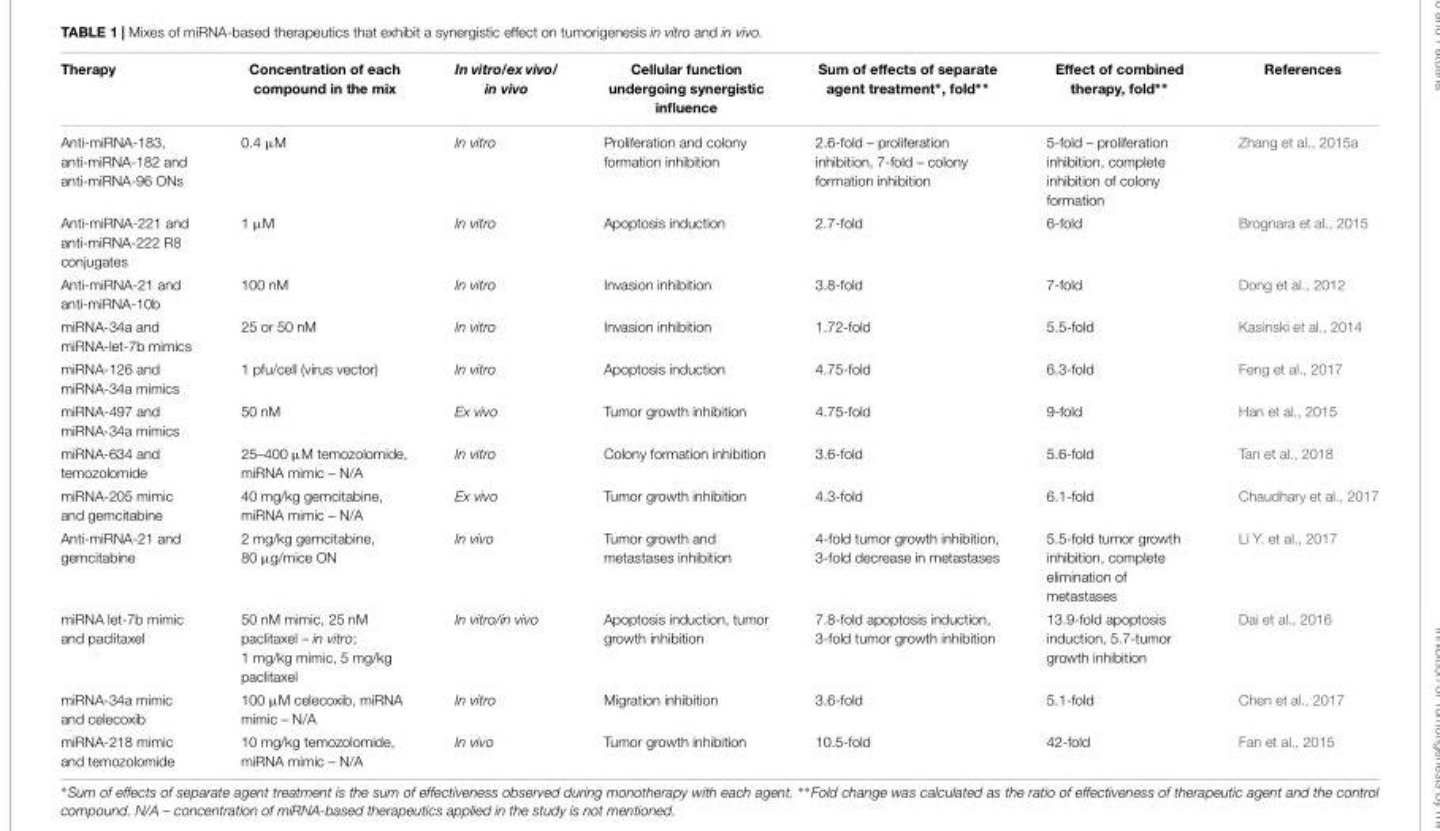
<table><thead><tr><td>Therapy</td><td>Concentration of each compound in the mix</td><td>In vitro/ex vivo/ in vivo</td><td>Cellular function undergoing synergistic influence</td><td>Sum of effects of separate agent treatment∗, fold∗∗</td><td>Effect of combined therapy, fold∗∗</td><td>References</td></tr></thead><tbody><tr><td>Anti-miRNA-183, anti-miRNA-182 and anti-miRNA-96 ONs</td><td>0.4 µM</td><td>In vitro</td><td>Proliferation and colony formation inhibition</td><td>2.6-fold – proliferation inhibition, 7-fold – colony formation inhibition</td><td>5-fold – proliferation inhibition, complete inhibition of colony formation</td><td>Zhang et al., 2015a</td></tr><tr><td>Anti-miRNA-221 and anti-miRNA-222 R8 conjugates</td><td>1 µM</td><td>In vitro</td><td>Apoptosis induction</td><td>2.7-fold</td><td>6-fold</td><td>Brognara et al., 2015</td></tr><tr><td>Anti-miRNA-21 and anti-miRNA-10b</td><td>100 nM</td><td>In vitro</td><td>Invasion inhibition</td><td>3.8-fold</td><td>7-fold</td><td>Dong et al., 2012</td></tr><tr><td>miRNA-34a and miRNA-let-7b mimics</td><td>25 or 50 nM</td><td>In vitro</td><td>Invasion inhibition</td><td>1.72-fold</td><td>5.5-fold</td><td>Kasinski et al., 2014</td></tr><tr><td>miRNA-126 and miRNA-34a mimics</td><td>1 pfu/cell (virus vector)</td><td>In vitro</td><td>Apoptosis induction</td><td>4.75-fold</td><td>6.3-fold</td><td>Feng et al., 2017</td></tr><tr><td>miRNA-497 and miRNA-34a mimics</td><td>50 nM</td><td>Ex vivo</td><td>Tumor growth inhibition</td><td>4.75-fold</td><td>9-fold</td><td>Han et al., 2015</td></tr><tr><td>miRNA-634 and temozolomide</td><td>25–400 µM temozolomide, miRNA mimic – N/A</td><td>In vitro</td><td>Colony formation inhibition</td><td>3.6-fold</td><td>5.6-fold</td><td>Tan et al., 2018</td></tr><tr><td>miRNA-205 mimic and gemcitabine</td><td>40 mg/kg gemcitabine, miRNA mimic – N/A</td><td>Ex vivo</td><td>Tumor growth inhibition</td><td>4.3-fold</td><td>6.1-fold</td><td>Chaudhary et al., 2017</td></tr><tr><td>Anti-miRNA-21 and gemcitabine</td><td>2 mg/kg gemcitabine, 80 µg/mice ON</td><td>In vivo</td><td>Tumor growth and metastases inhibition</td><td>4-fold tumor growth inhibition, 3-fold decrease in metastases</td><td>5.5-fold tumor growth inhibition, complete elimination of metastases</td><td>Li Y. et al., 2017</td></tr><tr><td>miRNA let-7b mimic and paclitaxel</td><td>50 nM mimic, 25 nM paclitaxel – in vitro; 1 mg/kg mimic, 5 mg/kg paclitaxel</td><td>In vitro/in vivo</td><td>Apoptosis induction, tumor growth inhibition</td><td>7.8-fold apoptosis induction, 3-fold tumor growth inhibition</td><td>13.9-fold apoptosis induction, 5.7-tumor growth inhibition</td><td>Dai et al., 2016</td></tr><tr><td>miRNA-34a mimic and celecoxib</td><td>100 µM celecoxib, miRNA mimic – N/A</td><td>In vitro</td><td>Migration inhibition</td><td>3.6-fold</td><td>5.1-fold</td><td>Chen et al., 2017</td></tr><tr><td>miRNA-218 mimic and temozolomide</td><td>10 mg/kg temozolomide, miRNA mimic – N/A</td><td>In vivo</td><td>Tumor growth inhibition</td><td>10.5-fold</td><td>42-fold</td><td>Fan et al., 2015</td></tr></tbody></table>